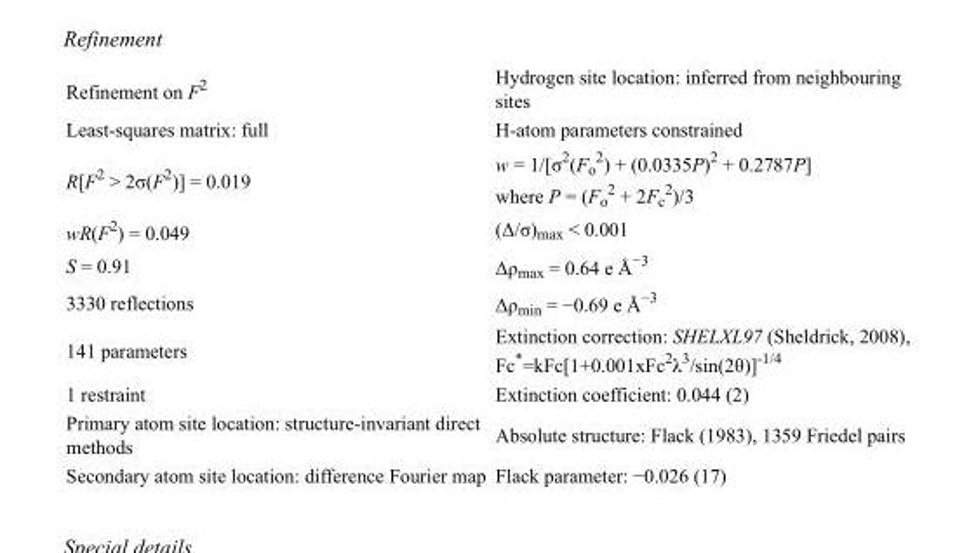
<table><tbody><tr><td>Refinement on F<sup>2</sup></td><td>Hydrogen site location: inferred from neighbouring sites</td></tr><tr><td>Least-squares matrix: full</td><td>H-atom parameters constrained</td></tr><tr><td>R[F<sup>2</sup> &gt; 2σ(F<sup>2</sup>)] = 0.019</td><td>w = 1/[σ<sup>2</sup>(F<sub>o</sub> <sup>2</sup>) + (0.0335P)<sup>2</sup> + 0.2787P] where P = (F<sub>o</sub> <sup>2</sup> + 2F<sub>c</sub> <sup>2</sup>)/3</td></tr><tr><td>wR(F<sup>2</sup>) = 0.049</td><td>(Δ/σ)<sub>max</sub> &lt; 0.001</td></tr><tr><td>S = 0.91</td><td>Δρ<sub>max</sub> = 0.64 e Å<sup>−3</sup></td></tr><tr><td>3330 reflections</td><td>Δρ<sub>min</sub> = −0.69 e Å<sup>−3</sup></td></tr><tr><td>141 parameters</td><td>Extinction correction: SHELXL97 (Sheldrick, 2008), Fc*=kFc[1+0.001xFc<sup>2</sup>λ<sup>3</sup>/sin(2θ)]<sup>-1/4</sup></td></tr><tr><td>1 restraint</td><td>Extinction coefficient: 0.044 (2)</td></tr><tr><td>Primary atom site location: structure-invariant direct methods</td><td>Absolute structure: Flack (1983), 1359 Friedel pairs</td></tr><tr><td>Secondary atom site location: difference Fourier map</td><td>Flack parameter: −0.026 (17)</td></tr></tbody></table>